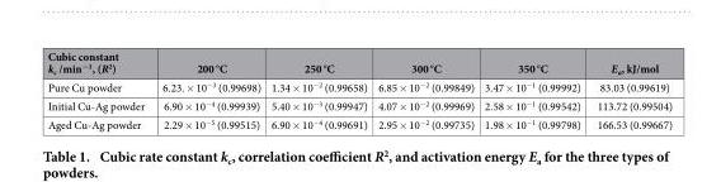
<table><thead><tr><td>Cubic constant k<sub>c</sub> /min<sup>−1</sup>, (R<sup>2</sup>)</td><td>200 °C</td><td>250 °C</td><td>300 °C</td><td>350 °C</td><td>E<sub>a</sub>, kJ/mol</td></tr></thead><tbody><tr><td>Pure Cu powder</td><td>6.23. × 10<sup>−3</sup> (0.99698)</td><td>1.34 × 10<sup>−2</sup> (0.99658)</td><td>6.85 × 10<sup>−2</sup> (0.99849)</td><td>3.47 × 10<sup>−1</sup> (0.99992)</td><td>83.03 (0.99619)</td></tr><tr><td>Initial Cu-Ag powder</td><td>6.90 × 10<sup>−4</sup> (0.99939)</td><td>5.40 × 10<sup>−3</sup> (0.99947)</td><td>4.07 × 10<sup>−2</sup> (0.99969)</td><td>2.58 × 10<sup>−1</sup> (0.99542)</td><td>113.72 (0.99504)</td></tr><tr><td>Aged Cu-Ag powder</td><td>2.29 × 10<sup>−5</sup> (0.99515)</td><td>6.90 × 10<sup>−4</sup> (0.99691)</td><td>2.95 × 10<sup>−2</sup> (0.99735)</td><td>1.98 × 10<sup>−1</sup> (0.99798)</td><td>166.53 (0.99667)</td></tr></tbody></table>